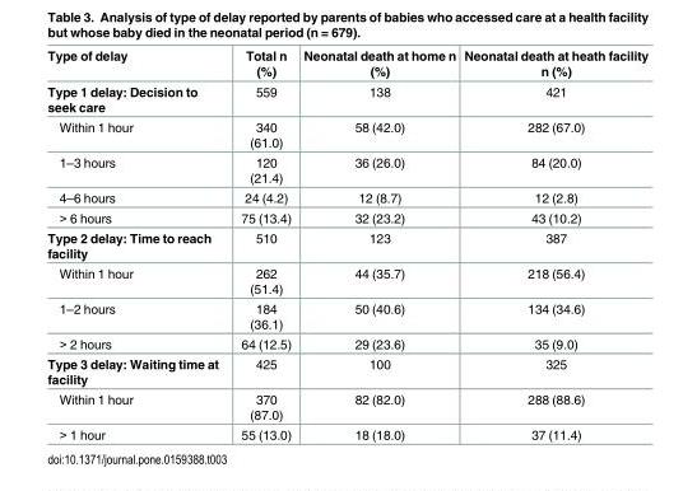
<table><thead><tr><td>Type of delay</td><td>Total n (%)</td><td>Neonatal death at home n (%)</td><td>Neonatal death at heath facility n (%)</td></tr></thead><tbody><tr><td>Type 1 delay: Decision to seek care</td><td>559</td><td>138</td><td>421</td></tr><tr><td>Within 1 hour</td><td>340 (61.0)</td><td>58 (42.0)</td><td>282 (67.0)</td></tr><tr><td>1–3 hours</td><td>120 (21.4)</td><td>36 (26.0)</td><td>84 (20.0)</td></tr><tr><td>4–6 hours</td><td>24 (4.2)</td><td>12 (8.7)</td><td>12 (2.8)</td></tr><tr><td>&gt; 6 hours</td><td>75 (13.4)</td><td>32 (23.2)</td><td>43 (10.2)</td></tr><tr><td>Type 2 delay: Time to reach facility</td><td>510</td><td>123</td><td>387</td></tr><tr><td>Within 1 hour</td><td>262 (51.4)</td><td>44 (35.7)</td><td>218 (56.4)</td></tr><tr><td>1–2 hours</td><td>184 (36.1)</td><td>50 (40.6)</td><td>134 (34.6)</td></tr><tr><td>&gt; 2 hours</td><td>64 (12.5)</td><td>29 (23.6)</td><td>35 (9.0)</td></tr><tr><td>Type 3 delay: Waiting time at facility</td><td>425</td><td>100</td><td>325</td></tr><tr><td>Within 1 hour</td><td>370 (87.0)</td><td>82 (82.0)</td><td>288 (88.6)</td></tr><tr><td>&gt; 1 hour</td><td>55 (13.0)</td><td>18 (18.0)</td><td>37 (11.4)</td></tr></tbody></table>